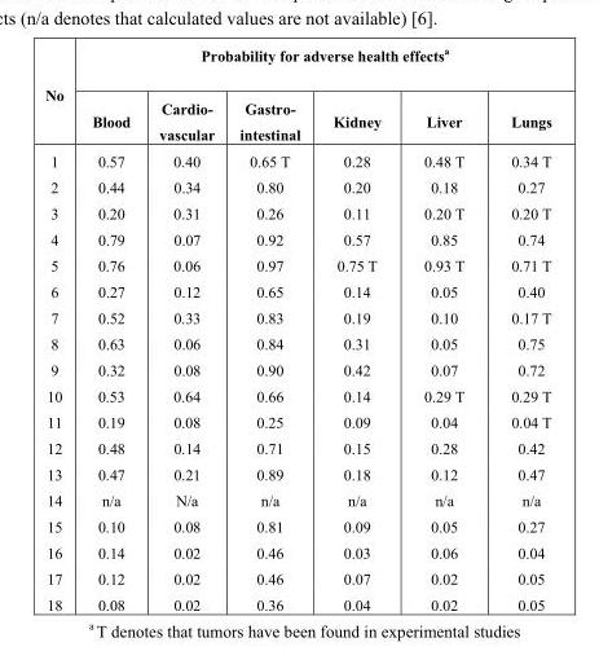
<table><thead><tr><td rowspan="2">No</td><td colspan="6">Probability for adverse health effectsa</td></tr><tr><td>Blood</td><td>Cardio- vascular</td><td>Gastro- intestinal</td><td>Kidney</td><td>Liver</td><td>Lungs</td></tr></thead><tbody><tr><td>1</td><td>0.57</td><td>0.40</td><td>0.65 T</td><td>0.28</td><td>0.48 T</td><td>0.34 T</td></tr><tr><td>2</td><td>0.44</td><td>0.34</td><td>0.80</td><td>0.20</td><td>0.18</td><td>0.27</td></tr><tr><td>3</td><td>0.20</td><td>0.31</td><td>0.26</td><td>0.11</td><td>0.20 T</td><td>0.20 T</td></tr><tr><td>4</td><td>0.79</td><td>0.07</td><td>0.92</td><td>0.57</td><td>0.85</td><td>0.74</td></tr><tr><td>5</td><td>0.76</td><td>0.06</td><td>0.97</td><td>0.75 T</td><td>0.93 T</td><td>0.71 T</td></tr><tr><td>6</td><td>0.27</td><td>0.12</td><td>0.65</td><td>0.14</td><td>0.05</td><td>0.40</td></tr><tr><td>7</td><td>0.52</td><td>0.33</td><td>0.83</td><td>0.19</td><td>0.10</td><td>0.17 T</td></tr><tr><td>8</td><td>0.63</td><td>0.06</td><td>0.84</td><td>0.31</td><td>0.05</td><td>0.75</td></tr><tr><td>9</td><td>0.32</td><td>0.08</td><td>0.90</td><td>0.42</td><td>0.07</td><td>0.72</td></tr><tr><td>10</td><td>0.53</td><td>0.64</td><td>0.66</td><td>0.14</td><td>0.29 T</td><td>0.29 T</td></tr><tr><td>11</td><td>0.19</td><td>0.08</td><td>0.25</td><td>0.09</td><td>0.04</td><td>0.04 T</td></tr><tr><td>12</td><td>0.48</td><td>0.14</td><td>0.71</td><td>0.15</td><td>0.28</td><td>0.42</td></tr><tr><td>13</td><td>0.47</td><td>0.21</td><td>0.89</td><td>0.18</td><td>0.12</td><td>0.47</td></tr><tr><td>14</td><td>n/a</td><td>N/a</td><td>n/a</td><td>n/a</td><td>n/a</td><td>n/a</td></tr><tr><td>15</td><td>0.10</td><td>0.08</td><td>0.81</td><td>0.09</td><td>0.05</td><td>0.27</td></tr><tr><td>16</td><td>0.14</td><td>0.02</td><td>0.46</td><td>0.03</td><td>0.06</td><td>0.04</td></tr><tr><td>17</td><td>0.12</td><td>0.02</td><td>0.46</td><td>0.07</td><td>0.02</td><td>0.05</td></tr><tr><td>18</td><td>0.08</td><td>0.02</td><td>0.36</td><td>0.04</td><td>0.02</td><td>0.05</td></tr></tbody></table>